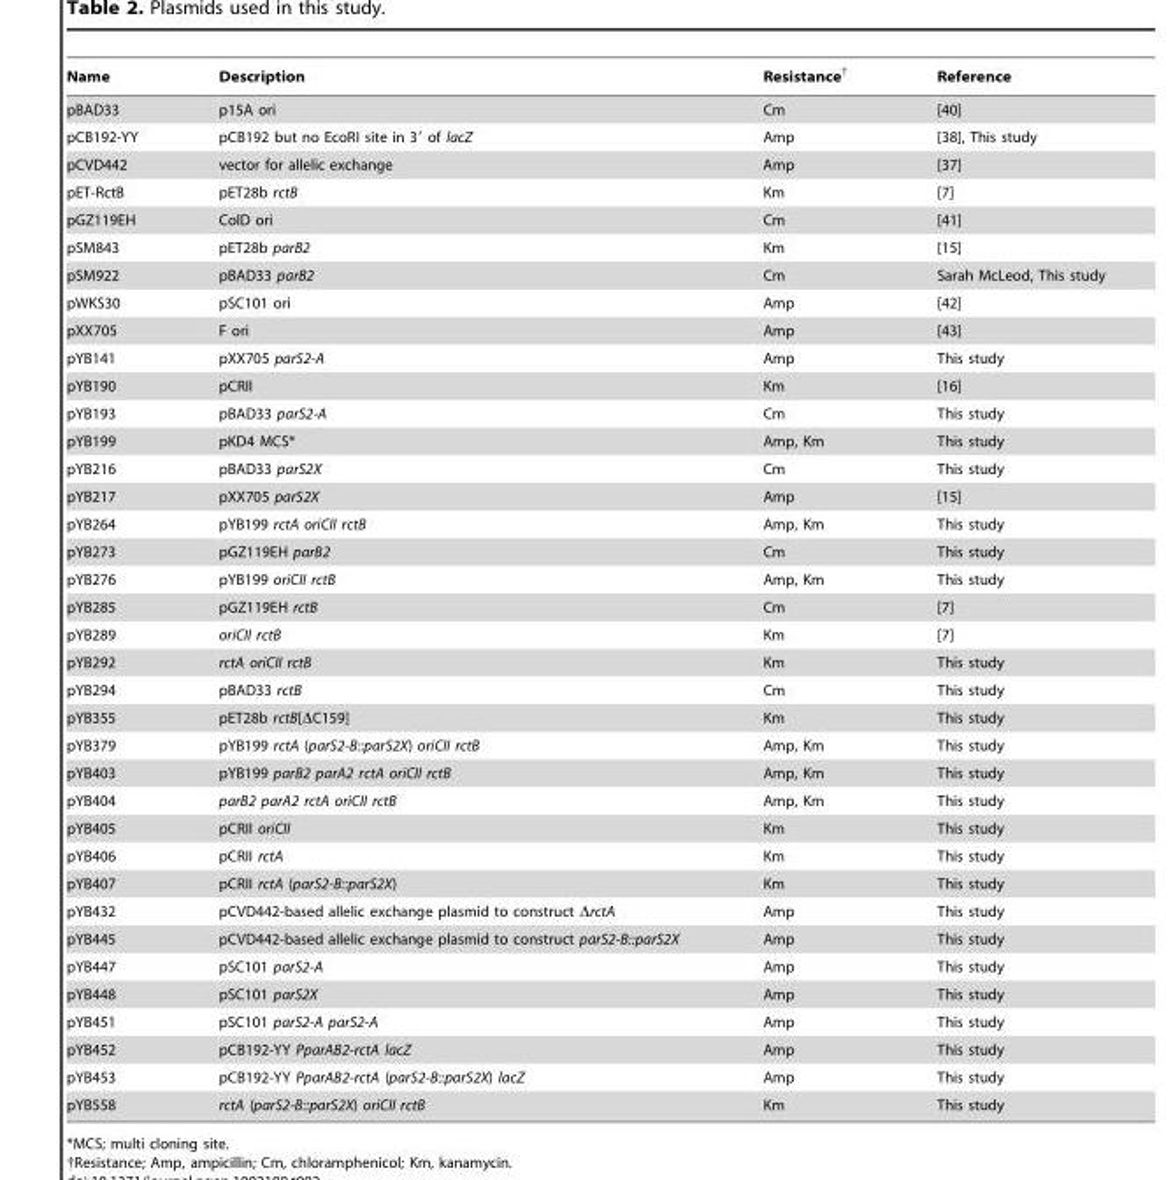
<table><thead><tr><td>Name</td><td>Description</td><td>Resistance†</td><td>Reference</td></tr></thead><tbody><tr><td>pBAD33</td><td>p15A ori</td><td>Cm</td><td>[40]</td></tr><tr><td>pCB192-YY</td><td>pCB192 but no EcoRI site in 3′ of lacZ</td><td>Amp</td><td>[38], This study</td></tr><tr><td>pCVD442</td><td>vector for allelic exchange</td><td>Amp</td><td>[37]</td></tr><tr><td>pET-RctB</td><td>pET28b rctB</td><td>Km</td><td>[7]</td></tr><tr><td>pGZ119EH</td><td>ColD ori</td><td>Cm</td><td>[41]</td></tr><tr><td>pSM843</td><td>pET28b parB2</td><td>Km</td><td>[15]</td></tr><tr><td>pSM922</td><td>pBAD33 parB2</td><td>Cm</td><td>Sarah McLeod, This study</td></tr><tr><td>pWKS30</td><td>pSC101 ori</td><td>Amp</td><td>[42]</td></tr><tr><td>pXX705</td><td>F ori</td><td>Amp</td><td>[43]</td></tr><tr><td>pYB141</td><td>pXX705 parS2-A</td><td>Amp</td><td>This study</td></tr><tr><td>pYB190</td><td>pCRII</td><td>Km</td><td>[16]</td></tr><tr><td>pYB193</td><td>pBAD33 parS2-A</td><td>Cm</td><td>This study</td></tr><tr><td>pYB199</td><td>pKD4 MCS*</td><td>Amp, Km</td><td>This study</td></tr><tr><td>pYB216</td><td>pBAD33 parS2X</td><td>Cm</td><td>This study</td></tr><tr><td>pYB217</td><td>pXX705 parS2X</td><td>Amp</td><td>[15]</td></tr><tr><td>pYB264</td><td>pYB199 rctA oriCII rctB</td><td>Amp, Km</td><td>This study</td></tr><tr><td>pYB273</td><td>pGZ119EH parB2</td><td>Cm</td><td>This study</td></tr><tr><td>pYB276</td><td>pYB199 oriCII rctB</td><td>Amp, Km</td><td>This study</td></tr><tr><td>pYB285</td><td>pGZ119EH rctB</td><td>Cm</td><td>[7]</td></tr><tr><td>pYB289</td><td>oriCII rctB</td><td>Km</td><td>[7]</td></tr><tr><td>pYB292</td><td>rctA oriCII rctB</td><td>Km</td><td>This study</td></tr><tr><td>pYB294</td><td>pBAD33 rctB</td><td>Cm</td><td>This study</td></tr><tr><td>pYB355</td><td>pET28b rctB[ΔC159]</td><td>Km</td><td>This study</td></tr><tr><td>pYB379</td><td>pYB199 rctA (parS2-B::parS2X) oriCII rctB</td><td>Amp, Km</td><td>This study</td></tr><tr><td>pYB403</td><td>pYB199 parB2 parA2 rctA oriCII rctB</td><td>Amp, Km</td><td>This study</td></tr><tr><td>pYB404</td><td>parB2 parA2 rctA oriCII rctB</td><td>Amp, Km</td><td>This study</td></tr><tr><td>pYB405</td><td>pCRII oriCII</td><td>Km</td><td>This study</td></tr><tr><td>pYB406</td><td>pCRII rctA</td><td>Km</td><td>This study</td></tr><tr><td>pYB407</td><td>pCRII rctA (parS2-B::parS2X)</td><td>Km</td><td>This study</td></tr><tr><td>pYB432</td><td>pCVD442-based allelic exchange plasmid to construct ΔrctA</td><td>Amp</td><td>This study</td></tr><tr><td>pYB445</td><td>pCVD442-based allelic exchange plasmid to construct parS2-B::parS2X</td><td>Amp</td><td>This study</td></tr><tr><td>pYB447</td><td>pSC101 parS2-A</td><td>Amp</td><td>This study</td></tr><tr><td>pYB448</td><td>pSC101 parS2X</td><td>Amp</td><td>This study</td></tr><tr><td>pYB451</td><td>pSC101 parS2-A parS2-A</td><td>Amp</td><td>This study</td></tr><tr><td>pYB452</td><td>pCB192-YY PparAB2-rctA lacZ</td><td>Amp</td><td>This study</td></tr><tr><td>pYB453</td><td>pCB192-YY PparAB2-rctA (parS2-B::parS2X) lacZ</td><td>Amp</td><td>This study</td></tr><tr><td>pYB558</td><td>rctA (parS2-B::parS2X) oriCII rctB</td><td>Km</td><td>This study</td></tr></tbody></table>